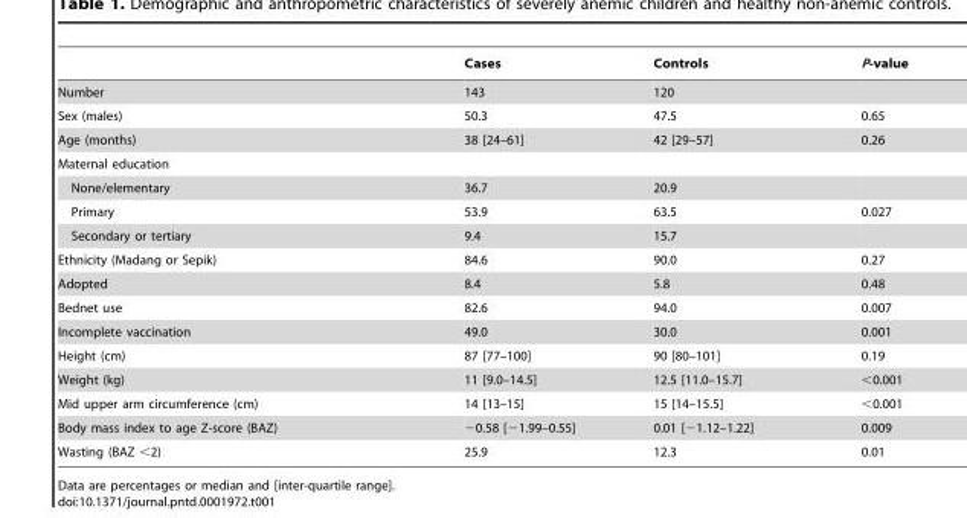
<table><thead><tr><td></td><td>Cases</td><td>Controls</td><td>P-value</td></tr></thead><tbody><tr><td>Number</td><td>143</td><td>120</td><td></td></tr><tr><td>Sex (males)</td><td>50.3</td><td>47.5</td><td>0.65</td></tr><tr><td>Age (months)</td><td>38 [24–61]</td><td>42 [29–57]</td><td>0.26</td></tr><tr><td colspan="4">Maternal education</td></tr><tr><td>None/elementary</td><td>36.7</td><td>20.9</td><td></td></tr><tr><td>Primary</td><td>53.9</td><td>63.5</td><td>0.027</td></tr><tr><td>Secondary or tertiary</td><td>9.4</td><td>15.7</td><td></td></tr><tr><td>Ethnicity (Madang or Sepik)</td><td>84.6</td><td>90.0</td><td>0.27</td></tr><tr><td>Adopted</td><td>8.4</td><td>5.8</td><td>0.48</td></tr><tr><td>Bednet use</td><td>82.6</td><td>94.0</td><td>0.007</td></tr><tr><td>Incomplete vaccination</td><td>49.0</td><td>30.0</td><td>0.001</td></tr><tr><td>Height (cm)</td><td>87 [77–100]</td><td>90 [80–101]</td><td>0.19</td></tr><tr><td>Weight (kg)</td><td>11 [9.0–14.5]</td><td>12.5 [11.0–15.7]</td><td>&lt;0.001</td></tr><tr><td>Mid upper arm circumference (cm)</td><td>14 [13–15]</td><td>15 [14–15.5]</td><td>&lt;0.001</td></tr><tr><td>Body mass index to age Z-score (BAZ)</td><td>−0.58 [−1.99–0.55]</td><td>0.01 [−1.12–1.22]</td><td>0.009</td></tr><tr><td>Wasting (BAZ &lt;2)</td><td>25.9</td><td>12.3</td><td>0.01</td></tr></tbody></table>